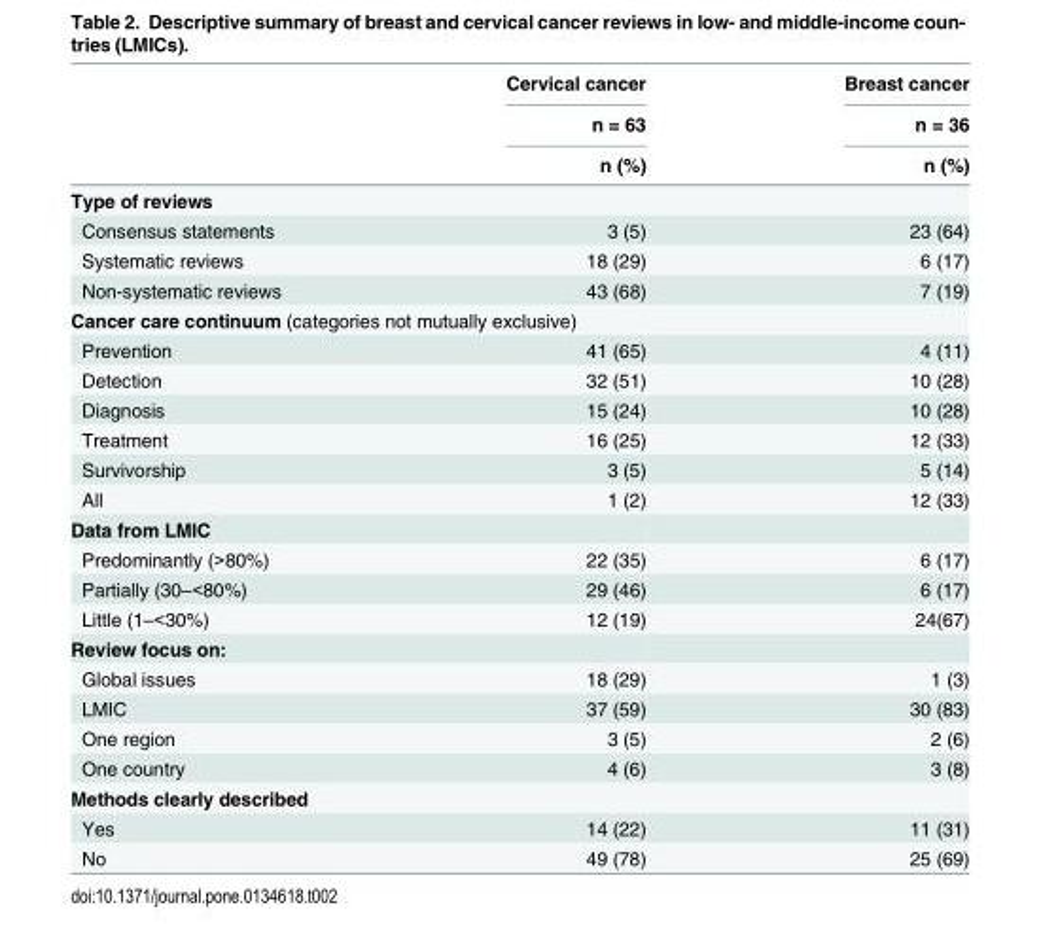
<table><thead><tr><td rowspan="3"></td><td rowspan="3">Cervical cancer n = 63 n (%)</td><td rowspan="3">Breast cancer n = 36 n (%)</td></tr><tr></tr><tr></tr></thead><tbody><tr><td colspan="3">Type of reviews</td></tr><tr><td>Consensus statements</td><td>3 (5)</td><td>23 (64)</td></tr><tr><td>Systematic reviews</td><td>18 (29)</td><td>6 (17)</td></tr><tr><td>Non-systematic reviews</td><td>43 (68)</td><td>7 (19)</td></tr><tr><td colspan="3">Cancer care continuum (categories not mutually exclusive)</td></tr><tr><td>Prevention</td><td>41 (65)</td><td>4 (11)</td></tr><tr><td>Detection</td><td>32 (51)</td><td>10 (28)</td></tr><tr><td>Diagnosis</td><td>15 (24)</td><td>10 (28)</td></tr><tr><td>Treatment</td><td>16 (25)</td><td>12 (33)</td></tr><tr><td>Survivorship</td><td>3 (5)</td><td>5 (14)</td></tr><tr><td>All</td><td>1 (2)</td><td>12 (33)</td></tr><tr><td colspan="3">Data from LMIC</td></tr><tr><td>Predominantly (&gt;80%)</td><td>22 (35)</td><td>6 (17)</td></tr><tr><td>Partially (30–&lt;80%)</td><td>29 (46)</td><td>6 (17)</td></tr><tr><td>Little (1–&lt;30%)</td><td>12 (19)</td><td>24(67)</td></tr><tr><td colspan="3">Review focus on:</td></tr><tr><td>Global issues</td><td>18 (29)</td><td>1 (3)</td></tr><tr><td>LMIC</td><td>37 (59)</td><td>30 (83)</td></tr><tr><td>One region</td><td>3 (5)</td><td>2 (6)</td></tr><tr><td>One country</td><td>4 (6)</td><td>3 (8)</td></tr><tr><td colspan="3">Methods clearly described</td></tr><tr><td>Yes</td><td>14 (22)</td><td>11 (31)</td></tr><tr><td>No</td><td>49 (78)</td><td>25 (69)</td></tr></tbody></table>